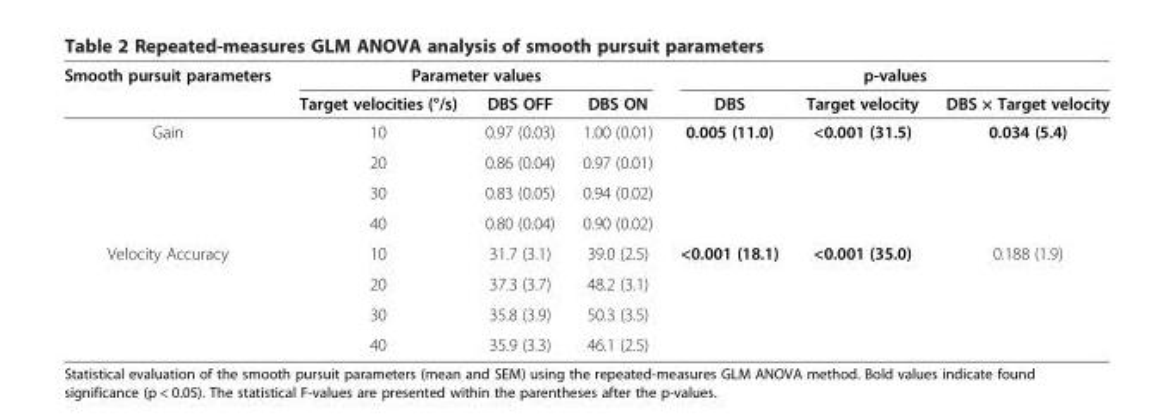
<table><thead><tr><td rowspan="2">Smooth pursuit parameters</td><td colspan="3">Parameter values</td><td colspan="3">p-values</td></tr><tr><td>Target velocities (°/s)</td><td>DBS OFF</td><td>DBS ON</td><td>DBS</td><td>Target velocity</td><td>DBS × Target velocity</td></tr></thead><tbody><tr><td rowspan="4">Gain</td><td>10</td><td>0.97 (0.03)</td><td>1.00 (0.01)</td><td>0.005 (11.0)</td><td>&lt;0.001 (31.5)</td><td>0.034 (5.4)</td></tr><tr><td>20</td><td>0.86 (0.04)</td><td>0.97 (0.01)</td><td></td><td></td><td></td></tr><tr><td>30</td><td>0.83 (0.05)</td><td>0.94 (0.02)</td><td></td><td></td><td></td></tr><tr><td>40</td><td>0.80 (0.04)</td><td>0.90 (0.02)</td><td></td><td></td><td></td></tr><tr><td rowspan="4">Velocity Accuracy</td><td>10</td><td>31.7 (3.1)</td><td>39.0 (2.5)</td><td>&lt;0.001 (18.1)</td><td>&lt;0.001 (35.0)</td><td>0.188 (1.9)</td></tr><tr><td>20</td><td>37.3 (3.7)</td><td>48.2 (3.1)</td><td></td><td></td><td></td></tr><tr><td>30</td><td>35.8 (3.9)</td><td>50.3 (3.5)</td><td></td><td></td><td></td></tr><tr><td>40</td><td>35.9 (3.3)</td><td>46.1 (2.5)</td><td></td><td></td><td></td></tr></tbody></table>